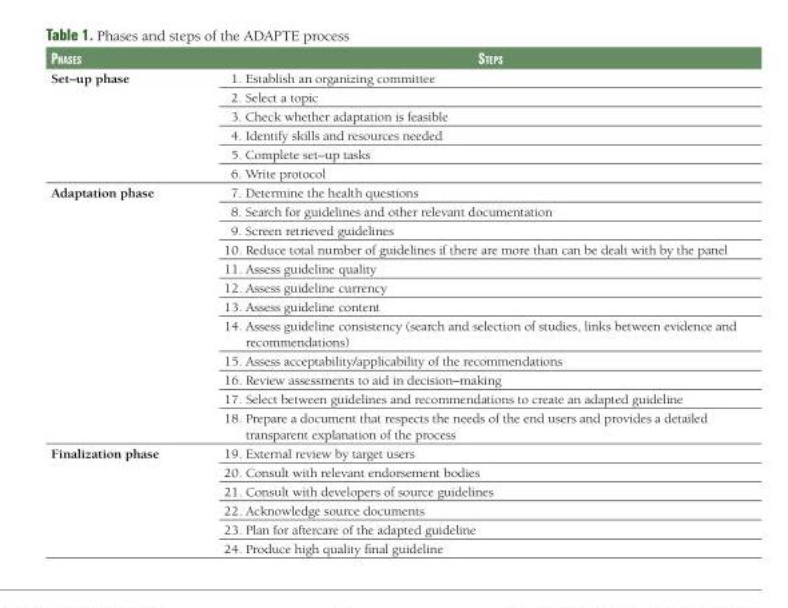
<table><thead><tr><td>Phases</td><td>stePs</td></tr></thead><tbody><tr><td rowspan="6">Set–up phase</td><td>1. Establish an organizing committee</td></tr><tr><td>2. Select a topic</td></tr><tr><td>3. Check whether adaptation is feasible</td></tr><tr><td>4. Identify skills and resources needed</td></tr><tr><td>5. Complete set–up tasks</td></tr><tr><td>6. Write protocol</td></tr><tr><td rowspan="12">Adaptation phase</td><td>7. Determine the health questions</td></tr><tr><td>8. Search for guidelines and other relevant documentation</td></tr><tr><td>9. Screen retrieved guidelines</td></tr><tr><td>10. Reduce total number of guidelines if there are more than can be dealt with by the panel</td></tr><tr><td>11. Assess guideline quality</td></tr><tr><td>12. Assess guideline currency</td></tr><tr><td>13. Assess guideline content</td></tr><tr><td>14. Assess guideline consistency (search and selection of studies, links between evidence and recommendations)</td></tr><tr><td>15. Assess acceptability/applicability of the recommendations</td></tr><tr><td>16. Review assessments to aid in decision–making</td></tr><tr><td>17. Select between guidelines and recommendations to create an adapted guideline</td></tr><tr><td>18. Prepare a document that respects the needs of the end users and provides a detailed transparent explanation of the process</td></tr><tr><td rowspan="6">Finalization phase</td><td>19. External review by target users</td></tr><tr><td>20. Consult with relevant endorsement bodies</td></tr><tr><td>21. Consult with developers of source guidelines</td></tr><tr><td>22. Acknowledge source documents</td></tr><tr><td>23. Plan for aftercare of the adapted guideline</td></tr><tr><td>24. Produce high quality final guideline</td></tr></tbody></table>